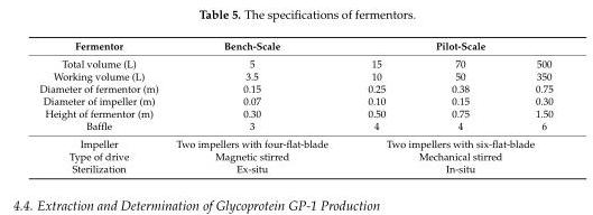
<table><thead><tr><td rowspan="2">Fermentor Total volume (L)</td><td rowspan="2">Bench-Scale 5</td><td colspan="3">Pilot-Scale</td></tr><tr><td>15</td><td>70</td><td>500</td></tr></thead><tbody><tr><td>Working volume (L)</td><td>3.5</td><td>10</td><td>50</td><td>350</td></tr><tr><td>Diameter of fermentor (m)</td><td>0.15</td><td>0.25</td><td>0.38</td><td>0.75</td></tr><tr><td>Diameter of impeller (m)</td><td>0.07</td><td>0.10</td><td>0.15</td><td>0.30</td></tr><tr><td>Height of fermentor (m)</td><td>0.30</td><td>0.50</td><td>0.75</td><td>1.50</td></tr><tr><td>Baffle</td><td>3</td><td>4</td><td>4</td><td>6</td></tr><tr><td>Impeller</td><td>Two impellers with four-flat-blade</td><td colspan="3">Two impellers with six-flat-blade</td></tr><tr><td>Type of drive</td><td>Magnetic stirred</td><td colspan="3">Mechanical stirred</td></tr><tr><td>Sterilization</td><td>Ex-situ</td><td colspan="3">In-situ</td></tr></tbody></table>